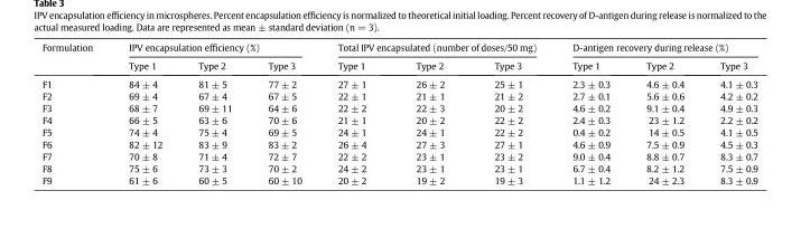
<table><thead><tr><td rowspan="2">Formulation</td><td colspan="3">IPV encapsulation efficiency (%)</td><td colspan="3">Total IPV encapsulated (number of doses/50 mg)</td><td colspan="3">D-antigen recovery during release (%)</td></tr><tr><td>Type 1</td><td>Type 2</td><td>Type 3</td><td>Type 1</td><td>Type 2</td><td>Type 3</td><td>Type 1</td><td>Type 2</td><td>Type 3</td></tr></thead><tbody><tr><td>F1</td><td>84 ± 4</td><td>81 ± 5</td><td>77 ± 2</td><td>27 ± 1</td><td>26 ± 2</td><td>25 ± 1</td><td>2.3 ± 0.3</td><td>4.6 ± 0.4</td><td>4.1 ± 0.3</td></tr><tr><td>F2</td><td>69 ± 4</td><td>67 ± 4</td><td>67 ± 5</td><td>22 ± 1</td><td>21 ± 1</td><td>21 ± 2</td><td>2.7 ± 0.1</td><td>5.6 ± 0.6</td><td>4.2 ± 0.2</td></tr><tr><td>F3</td><td>68 ± 7</td><td>69 ± 11</td><td>64 ± 6</td><td>22 ± 2</td><td>22 ± 3</td><td>20 ± 2</td><td>4.6 ± 0.2</td><td>9.1 ± 0.4</td><td>4.9 ± 0.3</td></tr><tr><td>F4</td><td>66 ± 5</td><td>63 ± 6</td><td>70 ± 6</td><td>21 ± 1</td><td>20 ± 2</td><td>22 ± 2</td><td>2.4 ± 0.3</td><td>23 ± 1.2</td><td>2.2 ± 0.2</td></tr><tr><td>F5</td><td>74 ± 4</td><td>75 ± 4</td><td>69 ± 5</td><td>24 ± 1</td><td>24 ± 1</td><td>22 ± 2</td><td>0.4 ± 0.2</td><td>14 ± 0.5</td><td>4.1 ± 0.5</td></tr><tr><td>F6</td><td>82 ± 12</td><td>83 ± 9</td><td>83 ± 2</td><td>26 ± 4</td><td>27 ± 3</td><td>27 ± 1</td><td>4.6 ± 0.9</td><td>7.5 ± 0.9</td><td>4.5 ± 0.3</td></tr><tr><td>F7</td><td>70 ± 8</td><td>71 ± 4</td><td>72 ± 7</td><td>22 ± 2</td><td>23 ± 1</td><td>23 ± 2</td><td>9.0 ± 0.4</td><td>8.8 ± 0.7</td><td>8.3 ± 0.7</td></tr><tr><td>F8</td><td>75 ± 6</td><td>73 ± 3</td><td>70 ± 2</td><td>24 ± 2</td><td>23 ± 1</td><td>23 ± 1</td><td>6.7 ± 0.4</td><td>8.2 ± 1.2</td><td>7.5 ± 0.9</td></tr><tr><td>F9</td><td>61 ± 6</td><td>60 ± 5</td><td>60 ± 10</td><td>20 ± 2</td><td>19 ± 2</td><td>19 ± 3</td><td>1.1 ± 1.2</td><td>24 ± 2.3</td><td>8.3 ± 0.9</td></tr></tbody></table>